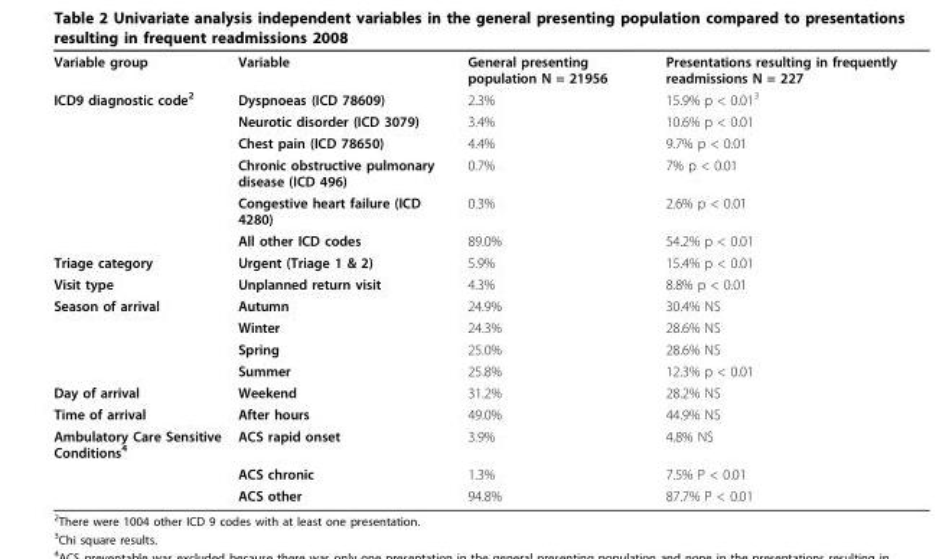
<table><tbody><tr><td>Variable group</td><td>Variable</td><td>General presenting population N = 21956</td><td>Presentations resulting in frequently readmissions N = 227</td></tr><tr><td rowspan="6">ICD9 diagnostic code<sup>2</sup></td><td>Dyspnoeas (ICD 78609)</td><td>2.3%</td><td>15.9% p &lt; 0.01<sup>3</sup></td></tr><tr><td>Neurotic disorder (ICD 3079)</td><td>3.4%</td><td>10.6% p &lt; 0.01</td></tr><tr><td>Chest pain (ICD 78650)</td><td>4.4%</td><td>9.7% p &lt; 0.01</td></tr><tr><td>Chronic obstructive pulmonary disease (ICD 496)</td><td>0.7%</td><td>7% p &lt; 0.01</td></tr><tr><td>Congestive heart failure (ICD 4280)</td><td>0.3%</td><td>2.6% p &lt; 0.01</td></tr><tr><td>All other ICD codes</td><td>89.0%</td><td>54.2% p &lt; 0.01</td></tr><tr><td>Triage category</td><td>Urgent (Triage 1 &amp; 2)</td><td>5.9%</td><td>15.4% p &lt; 0.01</td></tr><tr><td>Visit type</td><td>Unplanned return visit</td><td>4.3%</td><td>8.8% p &lt; 0.01</td></tr><tr><td rowspan="4">Season of arrival</td><td>Autumn</td><td>24.9%</td><td>30.4% NS</td></tr><tr><td>Winter</td><td>24.3%</td><td>28.6% NS</td></tr><tr><td>Spring</td><td>25.0%</td><td>28.6% NS</td></tr><tr><td>Summer</td><td>25.8%</td><td>12.3% p &lt; 0.01</td></tr><tr><td>Day of arrival</td><td>Weekend</td><td>31.2%</td><td>28.2% NS</td></tr><tr><td>Time of arrival</td><td>After hours</td><td>49.0%</td><td>44.9% NS</td></tr><tr><td rowspan="3">Ambulatory Care Sensitive Conditions<sup>4</sup></td><td>ACS rapid onset</td><td>3.9%</td><td>4.8% NS</td></tr><tr><td>ACS chronic</td><td>1.3%</td><td>7.5% P &lt; 0.01</td></tr><tr><td>ACS other</td><td>94.8%</td><td>87.7% P &lt; 0.01</td></tr></tbody></table>